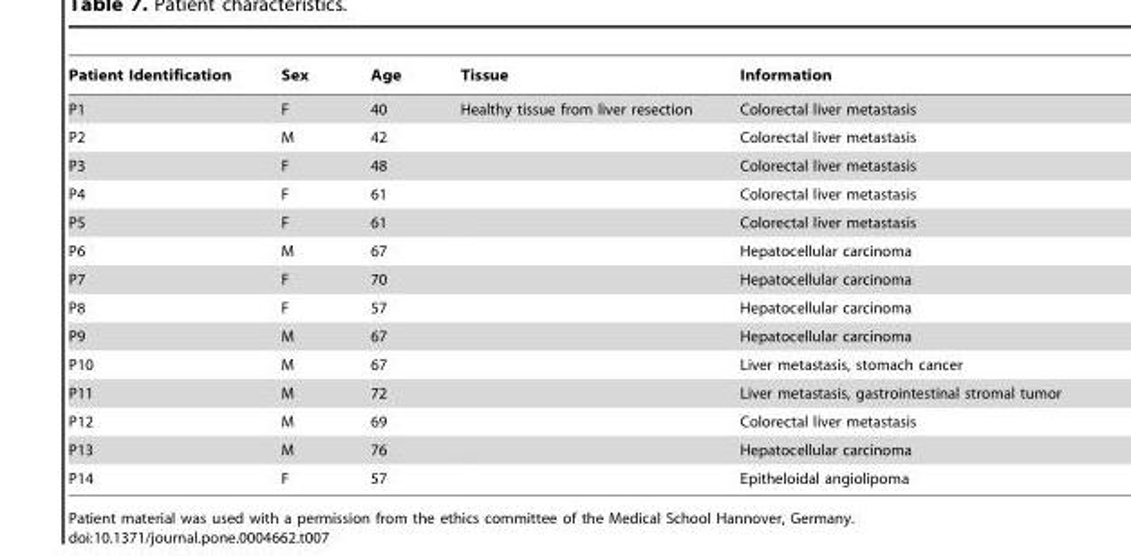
<table><thead><tr><td>Patient Identification</td><td>Sex</td><td>Age</td><td>Tissue</td><td>Information</td></tr></thead><tbody><tr><td>P1</td><td>F</td><td>40</td><td>Healthy tissue from liver resection</td><td>Colorectal liver metastasis</td></tr><tr><td>P2</td><td>M</td><td>42</td><td></td><td>Colorectal liver metastasis</td></tr><tr><td>P3</td><td>F</td><td>48</td><td></td><td>Colorectal liver metastasis</td></tr><tr><td>P4</td><td>F</td><td>61</td><td></td><td>Colorectal liver metastasis</td></tr><tr><td>P5</td><td>F</td><td>61</td><td></td><td>Colorectal liver metastasis</td></tr><tr><td>P6</td><td>M</td><td>67</td><td></td><td>Hepatocellular carcinoma</td></tr><tr><td>P7</td><td>F</td><td>70</td><td></td><td>Hepatocellular carcinoma</td></tr><tr><td>P8</td><td>F</td><td>57</td><td></td><td>Hepatocellular carcinoma</td></tr><tr><td>P9</td><td>M</td><td>67</td><td></td><td>Hepatocellular carcinoma</td></tr><tr><td>P10</td><td>M</td><td>67</td><td></td><td>Liver metastasis, stomach cancer</td></tr><tr><td>P11</td><td>M</td><td>72</td><td></td><td>Liver metastasis, gastrointestinal stromal tumor</td></tr><tr><td>P12</td><td>M</td><td>69</td><td></td><td>Colorectal liver metastasis</td></tr><tr><td>P13</td><td>M</td><td>76</td><td></td><td>Hepatocellular carcinoma</td></tr><tr><td>P14</td><td>F</td><td>57</td><td></td><td>Epitheloidal angiolipoma</td></tr></tbody></table>